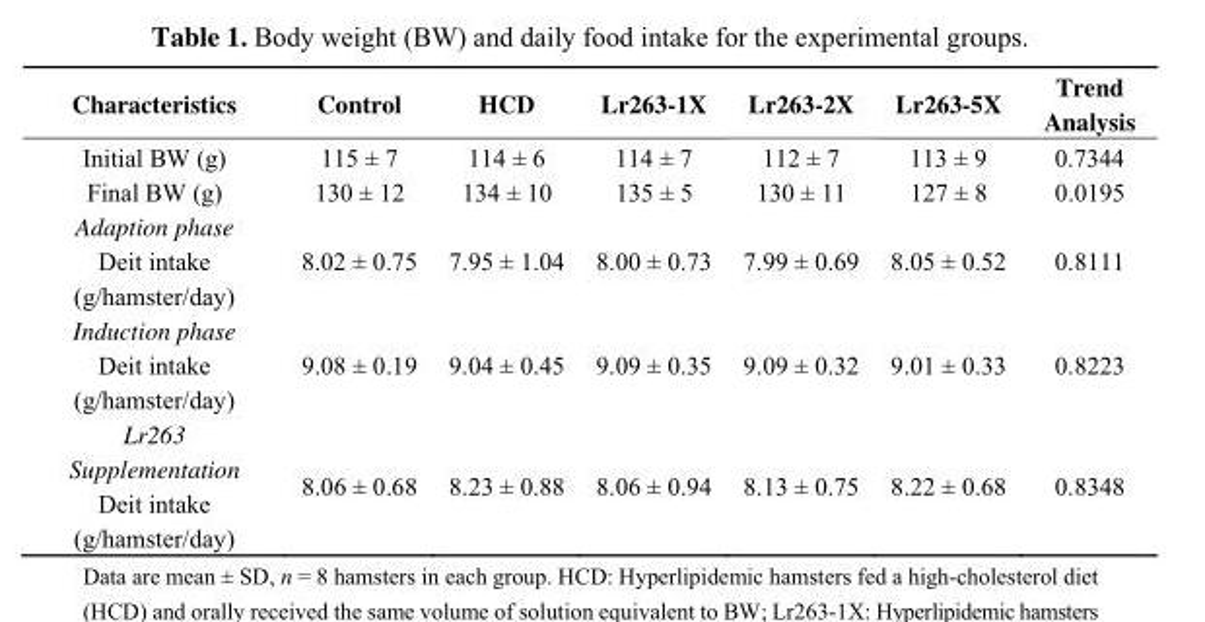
<table><thead><tr><td>Characteristics</td><td>Control</td><td>HCD</td><td>Lr263-1X</td><td>Lr263-2X</td><td>Lr263-5X</td><td>Trend Analysis</td></tr></thead><tbody><tr><td>Initial BW (g)</td><td>115 ± 7</td><td>114 ± 6</td><td>114 ± 7</td><td>112 ± 7</td><td>113 ± 9</td><td>0.7344</td></tr><tr><td>Final BW (g)</td><td>130 ± 12</td><td>134 ± 10</td><td>135 ± 5</td><td>130 ± 11</td><td>127 ± 8</td><td>0.0195</td></tr><tr><td>Adaption phase Deit intake (g/hamster/day)</td><td>8.02 ± 0.75</td><td>7.95 ± 1.04</td><td>8.00 ± 0.73</td><td>7.99 ± 0.69</td><td>8.05 ± 0.52</td><td>0.8111</td></tr><tr><td>Induction phase Deit intake (g/hamster/day)</td><td>9.08 ± 0.19</td><td>9.04 ± 0.45</td><td>9.09 ± 0.35</td><td>9.09 ± 0.32</td><td>9.01 ± 0.33</td><td>0.8223</td></tr><tr><td>Lr263 Supplementation Deit intake (g/hamster/day)</td><td>8.06 ± 0.68</td><td>8.23 ± 0.88</td><td>8.06 ± 0.94</td><td>8.13 ± 0.75</td><td>8.22 ± 0.68</td><td>0.8348</td></tr></tbody></table>